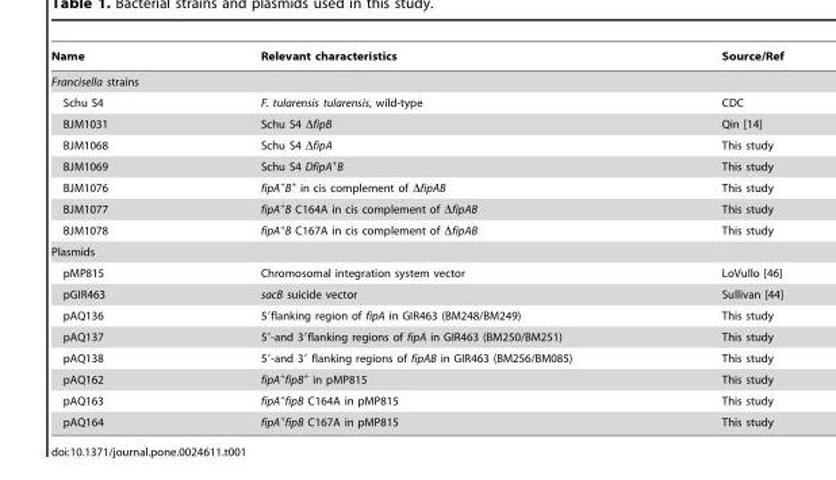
<table><thead><tr><td>Name</td><td>Relevant characteristics</td><td>Source/Ref</td></tr></thead><tbody><tr><td colspan="3">Francisella strains</td></tr><tr><td>Schu S4</td><td>F. tularensis tularensis, wild-type</td><td>CDC</td></tr><tr><td>BJM1031</td><td>Schu S4 ΔfipB</td><td>Qin [14]</td></tr><tr><td>BJM1068</td><td>Schu S4 ΔfipA</td><td>This study</td></tr><tr><td>BJM1069</td><td>Schu S4 DfipA<sup>+</sup>B</td><td>This study</td></tr><tr><td>BJM1076</td><td>fipA<sup>+</sup>B<sup>+</sup> in cis complement of ΔfipAB</td><td>This study</td></tr><tr><td>BJM1077</td><td>fipA<sup>+</sup>B C164A in cis complement of ΔfipAB</td><td>This study</td></tr><tr><td>BJM1078</td><td>fipA<sup>+</sup>B C167A in cis complement of ΔfipAB</td><td>This study</td></tr><tr><td colspan="3">Plasmids</td></tr><tr><td>pMP815</td><td>Chromosomal integration system vector</td><td>LoVullo [46]</td></tr><tr><td>pGIR463</td><td>sacB suicide vector</td><td>Sullivan [44]</td></tr><tr><td>pAQ136</td><td>5′flanking region of fipA in GIR463 (BM248/BM249)</td><td>This study</td></tr><tr><td>pAQ137</td><td>5′-and 3′flanking regions of fipA in GIR463 (BM250/BM251)</td><td>This study</td></tr><tr><td>pAQ138</td><td>5′-and 3′ flanking regions of fipAB in GIR463 (BM256/BM085)</td><td>This study</td></tr><tr><td>pAQ162</td><td>fipA<sup>+</sup>fipB<sup>+</sup> in pMP815</td><td>This study</td></tr><tr><td>pAQ163</td><td>fipA<sup>+</sup>fipB C164A in pMP815</td><td>This study</td></tr><tr><td>pAQ164</td><td>fipA<sup>+</sup>fipB C167A in pMP815</td><td>This study</td></tr></tbody></table>